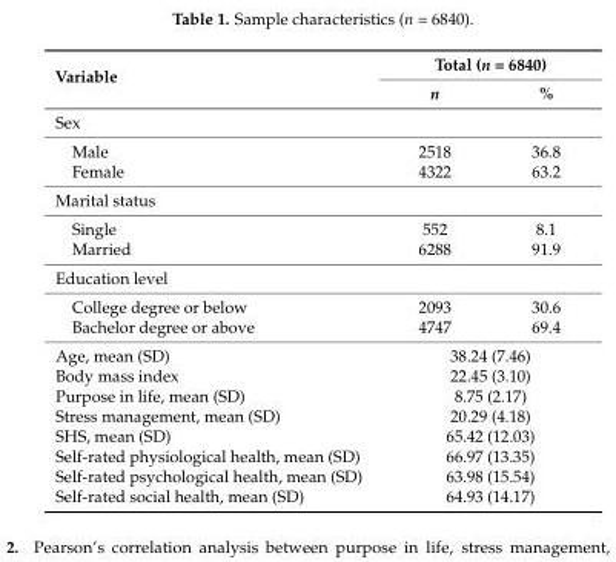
<table><thead><tr><td rowspan="2">Variable</td><td colspan="2">Total (n = 6840)</td></tr><tr><td>n</td><td>%</td></tr></thead><tbody><tr><td colspan="3">Sex</td></tr><tr><td>Male</td><td>2518</td><td>36.8</td></tr><tr><td>Female</td><td>4322</td><td>63.2</td></tr><tr><td colspan="3">Marital status</td></tr><tr><td>Single</td><td>552</td><td>8.1</td></tr><tr><td>Married</td><td>6288</td><td>91.9</td></tr><tr><td colspan="3">Education level</td></tr><tr><td>College degree or below</td><td>2093</td><td>30.6</td></tr><tr><td>Bachelor degree or above</td><td>4747</td><td>69.4</td></tr><tr><td>Age, mean (SD)</td><td colspan="2">38.24 (7.46)</td></tr><tr><td>Body mass index</td><td colspan="2">22.45 (3.10)</td></tr><tr><td>Purpose in life, mean (SD)</td><td colspan="2">8.75 (2.17)</td></tr><tr><td>Stress management, mean (SD)</td><td colspan="2">20.29 (4.18)</td></tr><tr><td>SHS, mean (SD)</td><td colspan="2">65.42 (12.03)</td></tr><tr><td>Self-rated physiological health, mean (SD)</td><td colspan="2">66.97 (13.35)</td></tr><tr><td>Self-rated psychological health, mean (SD)</td><td colspan="2">63.98 (15.54)</td></tr><tr><td>Self-rated social health, mean (SD)</td><td colspan="2">64.93 (14.17)</td></tr></tbody></table>